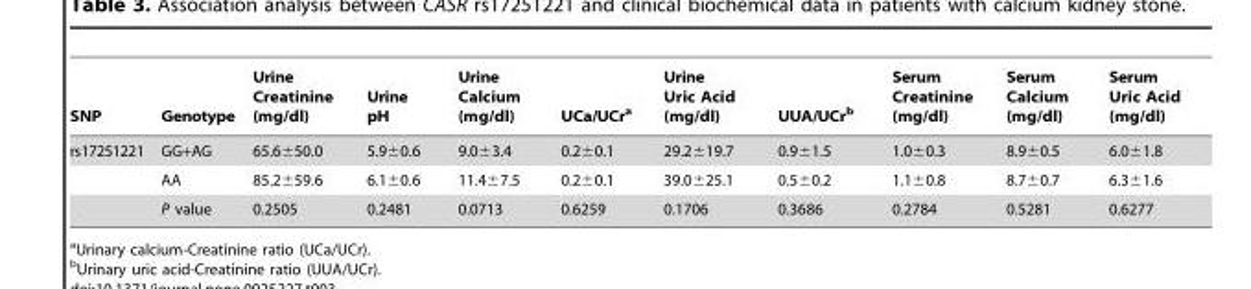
<table><thead><tr><td>SNP</td><td>Genotype</td><td>Urine Creatinine (mg/dl)</td><td>Urine pH</td><td>Urine Calcium (mg/dl)</td><td>UCa/UCr<sup>a</sup></td><td>Urine Uric Acid (mg/dl)</td><td>UUA/UCr<sup>b</sup></td><td>Serum Creatinine (mg/dl)</td><td>Serum Calcium (mg/dl)</td><td>Serum Uric Acid (mg/dl)</td></tr></thead><tbody><tr><td rowspan="3">rs17251221</td><td>GG+AG</td><td>65.6±50.0</td><td>5.9±0.6</td><td>9.0±3.4</td><td>0.2±0.1</td><td>29.2±19.7</td><td>0.9±1.5</td><td>1.0±0.3</td><td>8.9±0.5</td><td>6.0±1.8</td></tr><tr><td>AA</td><td>85.2±59.6</td><td>6.1±0.6</td><td>11.4±7.5</td><td>0.2±0.1</td><td>39.0±25.1</td><td>0.5±0.2</td><td>1.1±0.8</td><td>8.7±0.7</td><td>6.3±1.6</td></tr><tr><td>P value</td><td>0.2505</td><td>0.2481</td><td>0.0713</td><td>0.6259</td><td>0.1706</td><td>0.3686</td><td>0.2784</td><td>0.5281</td><td>0.6277</td></tr></tbody></table>